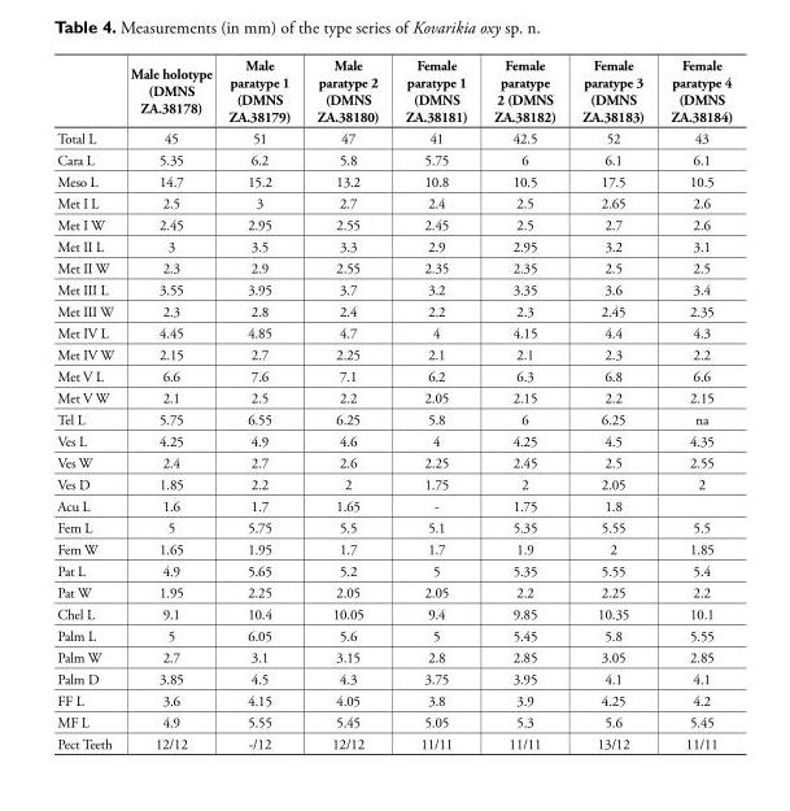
<table><thead><tr><td></td><td>Male holotype (DMNS ZA.38178)</td><td>Male paratype 1 (DMNS ZA.38179)</td><td>Male paratype 2 (DMNS ZA.38180)</td><td>Female paratype 1 (DMNS ZA.38181)</td><td>Female paratype 2 (DMNS ZA.38182)</td><td>Female paratype 3 (DMNS ZA.38183)</td><td>Female paratype 4 (DMNS ZA.38184)</td></tr></thead><tbody><tr><td>Total L</td><td>45</td><td>51</td><td>47</td><td>41</td><td>42.5</td><td>52</td><td>43</td></tr><tr><td>Cara L</td><td>5.35</td><td>6.2</td><td>5.8</td><td>5.75</td><td>6</td><td>6.1</td><td>6.1</td></tr><tr><td>Meso L</td><td>14.7</td><td>15.2</td><td>13.2</td><td>10.8</td><td>10.5</td><td>17.5</td><td>10.5</td></tr><tr><td>Met I L</td><td>2.5</td><td>3</td><td>2.7</td><td>2.4</td><td>2.5</td><td>2.65</td><td>2.6</td></tr><tr><td>Met I W</td><td>2.45</td><td>2.95</td><td>2.55</td><td>2.45</td><td>2.5</td><td>2.7</td><td>2.6</td></tr><tr><td>Met II L</td><td>3</td><td>3.5</td><td>3.3</td><td>2.9</td><td>2.95</td><td>3.2</td><td>3.1</td></tr><tr><td>Met II W</td><td>2.3</td><td>2.9</td><td>2.55</td><td>2.35</td><td>2.35</td><td>2.5</td><td>2.5</td></tr><tr><td>Met III L</td><td>3.55</td><td>3.95</td><td>3.7</td><td>3.2</td><td>3.35</td><td>3.6</td><td>3.4</td></tr><tr><td>Met III W</td><td>2.3</td><td>2.8</td><td>2.4</td><td>2.2</td><td>2.3</td><td>2.45</td><td>2.35</td></tr><tr><td>Met IV L</td><td>4.45</td><td>4.85</td><td>4.7</td><td>4</td><td>4.15</td><td>4.4</td><td>4.3</td></tr><tr><td>Met IV W</td><td>2.15</td><td>2.7</td><td>2.25</td><td>2.1</td><td>2.1</td><td>2.3</td><td>2.2</td></tr><tr><td>Met V L</td><td>6.6</td><td>7.6</td><td>7.1</td><td>6.2</td><td>6.3</td><td>6.8</td><td>6.6</td></tr><tr><td>Met V W</td><td>2.1</td><td>2.5</td><td>2.2</td><td>2.05</td><td>2.15</td><td>2.2</td><td>2.15</td></tr><tr><td>Tel L</td><td>5.75</td><td>6.55</td><td>6.25</td><td>5.8</td><td>6</td><td>6.25</td><td>na</td></tr><tr><td>Ves L</td><td>4.25</td><td>4.9</td><td>4.6</td><td>4</td><td>4.25</td><td>4.5</td><td>4.35</td></tr><tr><td>Ves W</td><td>2.4</td><td>2.7</td><td>2.6</td><td>2.25</td><td>2.45</td><td>2.5</td><td>2.55</td></tr><tr><td>Ves D</td><td>1.85</td><td>2.2</td><td>2</td><td>1.75</td><td>2</td><td>2.05</td><td>2</td></tr><tr><td>Acu L</td><td>1.6</td><td>1.7</td><td>1.65</td><td>-</td><td>1.75</td><td>1.8</td><td></td></tr><tr><td>Fem L</td><td>5</td><td>5.75</td><td>5.5</td><td>5.1</td><td>5.35</td><td>5.55</td><td>5.5</td></tr><tr><td>Fem W</td><td>1.65</td><td>1.95</td><td>1.7</td><td>1.7</td><td>1.9</td><td>2</td><td>1.85</td></tr><tr><td>Pat L</td><td>4.9</td><td>5.65</td><td>5.2</td><td>5</td><td>5.35</td><td>5.55</td><td>5.4</td></tr><tr><td>Pat W</td><td>1.95</td><td>2.25</td><td>2.05</td><td>2.05</td><td>2.2</td><td>2.25</td><td>2.2</td></tr><tr><td>Chel L</td><td>9.1</td><td>10.4</td><td>10.05</td><td>9.4</td><td>9.85</td><td>10.35</td><td>10.1</td></tr><tr><td>Palm L</td><td>5</td><td>6.05</td><td>5.6</td><td>5</td><td>5.45</td><td>5.8</td><td>5.55</td></tr><tr><td>Palm W</td><td>2.7</td><td>3.1</td><td>3.15</td><td>2.8</td><td>2.85</td><td>3.05</td><td>2.85</td></tr><tr><td>Palm D</td><td>3.85</td><td>4.5</td><td>4.3</td><td>3.75</td><td>3.95</td><td>4.1</td><td>4.1</td></tr><tr><td>FF L</td><td>3.6</td><td>4.15</td><td>4.05</td><td>3.8</td><td>3.9</td><td>4.25</td><td>4.2</td></tr><tr><td>MF L</td><td>4.9</td><td>5.55</td><td>5.45</td><td>5.05</td><td>5.3</td><td>5.6</td><td>5.45</td></tr><tr><td>Pect Teeth</td><td>12/12</td><td>-/12</td><td>12/12</td><td>11/11</td><td>11/11</td><td>13/12</td><td>11/11</td></tr></tbody></table>